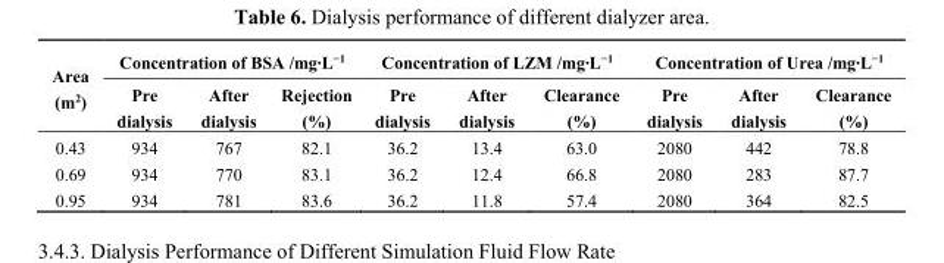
<table><thead><tr><td rowspan="2">Area (m<sup>2</sup>)</td><td colspan="3">Concentration of BSA /mg∙L<sup>−1</sup></td><td colspan="3">Concentration of LZM /mg∙L<sup>−1</sup></td><td colspan="3">Concentration of Urea /mg∙L<sup>−1</sup></td></tr><tr><td>Pre dialysis</td><td>After dialysis</td><td>Rejection (%)</td><td>Pre dialysis</td><td>After dialysis</td><td>Clearance (%)</td><td>Pre dialysis</td><td>After dialysis</td><td>Clearance (%)</td></tr></thead><tbody><tr><td>0.43</td><td>934</td><td>767</td><td>82.1</td><td>36.2</td><td>13.4</td><td>63.0</td><td>2080</td><td>442</td><td>78.8</td></tr><tr><td>0.69</td><td>934</td><td>770</td><td>83.1</td><td>36.2</td><td>12.4</td><td>66.8</td><td>2080</td><td>283</td><td>87.7</td></tr><tr><td>0.95</td><td>934</td><td>781</td><td>83.6</td><td>36.2</td><td>11.8</td><td>57.4</td><td>2080</td><td>364</td><td>82.5</td></tr></tbody></table>